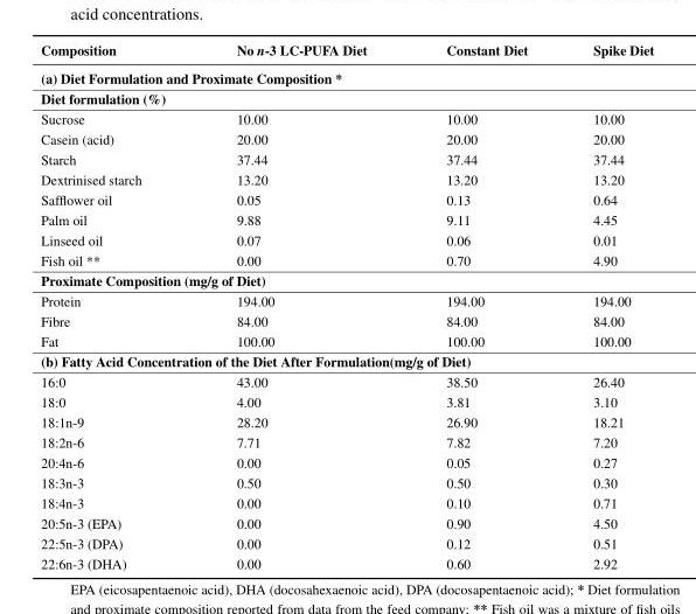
<table><thead><tr><td>Composition</td><td>No n-3 LC-PUFA Diet</td><td>Constant Diet</td><td>Spike Diet</td></tr></thead><tbody><tr><td colspan="4">(a) Diet Formulation and Proximate Composition *</td></tr><tr><td colspan="4">Diet formulation (%)</td></tr><tr><td>Sucrose</td><td>10.00</td><td>10.00</td><td>10.00</td></tr><tr><td>Casein (acid)</td><td>20.00</td><td>20.00</td><td>20.00</td></tr><tr><td>Starch</td><td>37.44</td><td>37.44</td><td>37.44</td></tr><tr><td>Dextrinised starch</td><td>13.20</td><td>13.20</td><td>13.20</td></tr><tr><td>Safflower oil</td><td>0.05</td><td>0.13</td><td>0.64</td></tr><tr><td>Palm oil</td><td>9.88</td><td>9.11</td><td>4.45</td></tr><tr><td>Linseed oil</td><td>0.07</td><td>0.06</td><td>0.01</td></tr><tr><td>Fish oil **</td><td>0.00</td><td>0.70</td><td>4.90</td></tr><tr><td colspan="4">Proximate Composition (mg/g of Diet)</td></tr><tr><td>Protein</td><td>194.00</td><td>194.00</td><td>194.00</td></tr><tr><td>Fibre</td><td>84.00</td><td>84.00</td><td>84.00</td></tr><tr><td>Fat</td><td>100.00</td><td>100.00</td><td>100.00</td></tr><tr><td colspan="4">(b) Fatty Acid Concentration of the Diet After Formulation(mg/g of Diet)</td></tr><tr><td>16:0</td><td>43.00</td><td>38.50</td><td>26.40</td></tr><tr><td>18:0</td><td>4.00</td><td>3.81</td><td>3.10</td></tr><tr><td>18:1n-9</td><td>28.20</td><td>26.90</td><td>18.21</td></tr><tr><td>18:2n-6</td><td>7.71</td><td>7.82</td><td>7.20</td></tr><tr><td>20:4n-6</td><td>0.00</td><td>0.05</td><td>0.27</td></tr><tr><td>18:3n-3</td><td>0.50</td><td>0.50</td><td>0.30</td></tr><tr><td>18:4n-3</td><td>0.00</td><td>0.10</td><td>0.71</td></tr><tr><td>20:5n-3 (EPA)</td><td>0.00</td><td>0.90</td><td>4.50</td></tr><tr><td>22:5n-3 (DPA)</td><td>0.00</td><td>0.12</td><td>0.51</td></tr><tr><td>22:6n-3 (DHA)</td><td>0.00</td><td>0.60</td><td>2.92</td></tr></tbody></table>